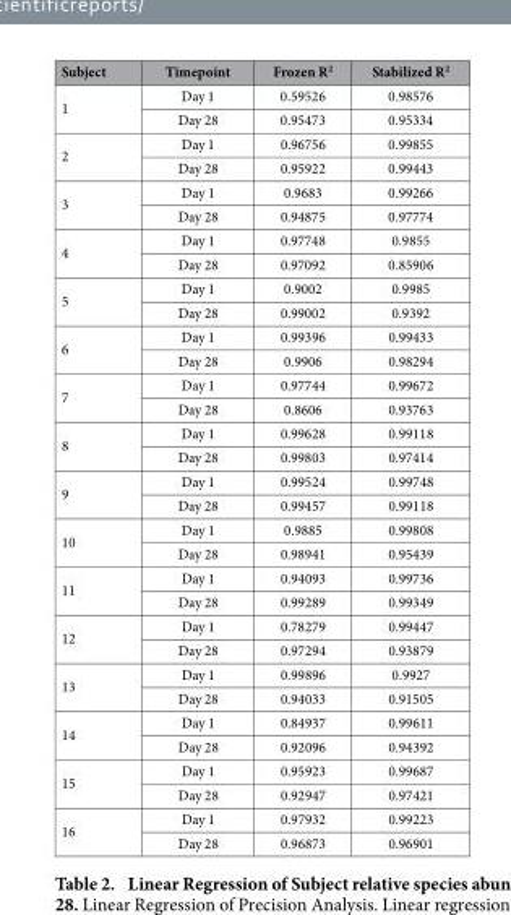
<table><thead><tr><td>Subject</td><td>Timepoint</td><td>Frozen R<sup>2</sup></td><td>Stabilized R<sup>2</sup></td></tr></thead><tbody><tr><td rowspan="2">1</td><td>Day 1</td><td>0.59526</td><td>0.98576</td></tr><tr><td>Day 28</td><td>0.95473</td><td>0.95334</td></tr><tr><td rowspan="2">2</td><td>Day 1</td><td>0.96756</td><td>0.99855</td></tr><tr><td>Day 28</td><td>0.95922</td><td>0.99443</td></tr><tr><td rowspan="2">3</td><td>Day 1</td><td>0.9683</td><td>0.99266</td></tr><tr><td>Day 28</td><td>0.94875</td><td>0.97774</td></tr><tr><td rowspan="2">4</td><td>Day 1</td><td>0.97748</td><td>0.9855</td></tr><tr><td>Day 28</td><td>0.97092</td><td>0.85906</td></tr><tr><td rowspan="2">5</td><td>Day 1</td><td>0.9002</td><td>0.9985</td></tr><tr><td>Day 28</td><td>0.99002</td><td>0.9392</td></tr><tr><td rowspan="2">6</td><td>Day 1</td><td>0.99396</td><td>0.99433</td></tr><tr><td>Day 28</td><td>0.9906</td><td>0.98294</td></tr><tr><td rowspan="2">7</td><td>Day 1</td><td>0.97744</td><td>0.99672</td></tr><tr><td>Day 28</td><td>0.8606</td><td>0.93763</td></tr><tr><td rowspan="2">8</td><td>Day 1</td><td>0.99628</td><td>0.99118</td></tr><tr><td>Day 28</td><td>0.99803</td><td>0.97414</td></tr><tr><td rowspan="2">9</td><td>Day 1</td><td>0.99524</td><td>0.99748</td></tr><tr><td>Day 28</td><td>0.99457</td><td>0.99118</td></tr><tr><td rowspan="2">10</td><td>Day 1</td><td>0.9885</td><td>0.99808</td></tr><tr><td>Day 28</td><td>0.98941</td><td>0.95439</td></tr><tr><td rowspan="2">11</td><td>Day 1</td><td>0.94093</td><td>0.99736</td></tr><tr><td>Day 28</td><td>0.99289</td><td>0.99349</td></tr><tr><td rowspan="2">12</td><td>Day 1</td><td>0.78279</td><td>0.99447</td></tr><tr><td>Day 28</td><td>0.97294</td><td>0.93879</td></tr><tr><td rowspan="2">13</td><td>Day 1</td><td>0.99896</td><td>0.9927</td></tr><tr><td>Day 28</td><td>0.94033</td><td>0.91505</td></tr><tr><td rowspan="2">14</td><td>Day 1</td><td>0.84937</td><td>0.99611</td></tr><tr><td>Day 28</td><td>0.92096</td><td>0.94392</td></tr><tr><td rowspan="2">15</td><td>Day 1</td><td>0.95923</td><td>0.99687</td></tr><tr><td>Day 28</td><td>0.92947</td><td>0.97421</td></tr><tr><td rowspan="2">16</td><td>Day 1</td><td>0.97932</td><td>0.99223</td></tr><tr><td>Day 28</td><td>0.96873</td><td>0.96901</td></tr></tbody></table>